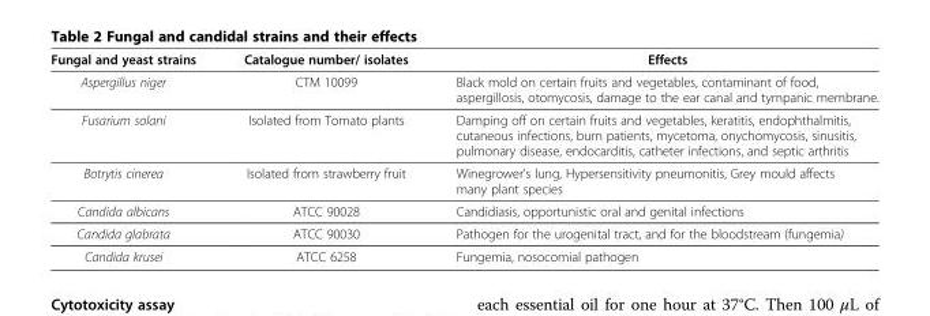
<table><thead><tr><td>Fungal and yeast strains</td><td>Catalogue number/ isolates</td><td>Effects</td></tr></thead><tbody><tr><td>Aspergillus niger</td><td>CTM 10099</td><td>Black mold on certain fruits and vegetables, contaminant of food, aspergillosis, otomycosis, damage to the ear canal and tympanic membrane.</td></tr><tr><td>Fusarium solani</td><td>Isolated from Tomato plants</td><td>Damping off on certain fruits and vegetables, keratitis, endophthalmitis, cutaneous infections, burn patients, mycetoma, onychomycosis, sinusitis, pulmonary disease, endocarditis, catheter infections, and septic arthritis</td></tr><tr><td>Botrytis cinerea</td><td>Isolated from strawberry fruit</td><td>Winegrower’s lung, Hypersensitivity pneumonitis, Grey mould affects many plant species</td></tr><tr><td>Candida albicans</td><td>ATCC 90028</td><td>Candidiasis, opportunistic oral and genital infections</td></tr><tr><td>Candida glabrata</td><td>ATCC 90030</td><td>Pathogen for the urogenital tract, and for the bloodstream (fungemia)</td></tr><tr><td>Candida krusei</td><td>ATCC 6258</td><td>Fungemia, nosocomial pathogen</td></tr></tbody></table>